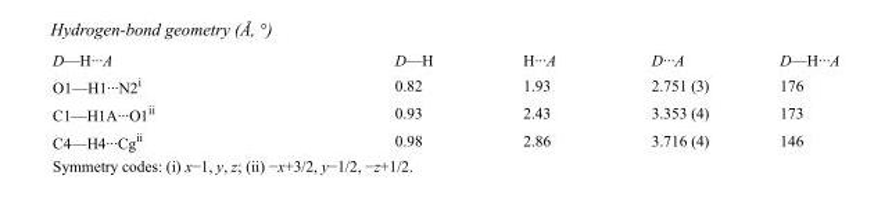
<table><tbody><tr><td>D—H···A</td><td>D—H</td><td>H···A</td><td>D···A</td><td>D—H···A</td></tr><tr><td>O1—H1···N2<sup>i</sup></td><td>0.82</td><td>1.93</td><td>2.751 (3)</td><td>176</td></tr><tr><td>C1—H1A···O1<sup>ii</sup></td><td>0.93</td><td>2.43</td><td>3.353 (4)</td><td>173</td></tr><tr><td>C4—H4···Cg<sup>ii</sup></td><td>0.98</td><td>2.86</td><td>3.716 (4)</td><td>146</td></tr></tbody></table>